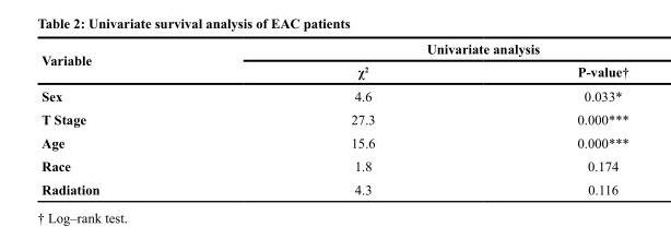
<table><thead><tr><td rowspan="2">Variable</td><td colspan="2">Univariate analysis</td></tr><tr><td>χ<sup>2</sup></td><td>P-value<sup>†</sup></td></tr></thead><tbody><tr><td>Sex</td><td>4.6</td><td>0.033*</td></tr><tr><td>T Stage</td><td>27.3</td><td>0.000***</td></tr><tr><td>Age</td><td>15.6</td><td>0.000***</td></tr><tr><td>Race</td><td>1.8</td><td>0.174</td></tr><tr><td>Radiation</td><td>4.3</td><td>0.116</td></tr></tbody></table>